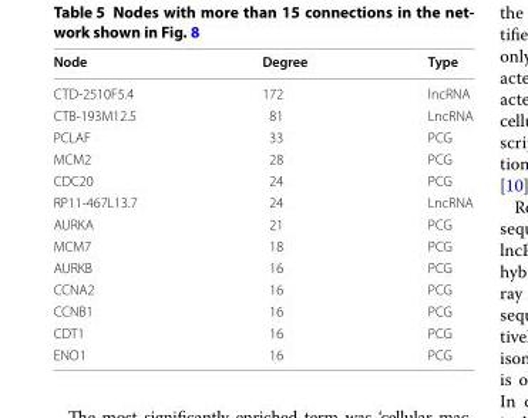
<table><thead><tr><td>Node</td><td>Degree</td><td>Type</td></tr></thead><tbody><tr><td>CTD-2510F5.4</td><td>172</td><td>lncRNA</td></tr><tr><td>CTB-193M12.5</td><td>81</td><td>LncRNA</td></tr><tr><td>PCLAF</td><td>33</td><td>PCG</td></tr><tr><td>MCM2</td><td>28</td><td>PCG</td></tr><tr><td>CDC20</td><td>24</td><td>PCG</td></tr><tr><td>RP11-467L13.7</td><td>24</td><td>LncRNA</td></tr><tr><td>AURKA</td><td>21</td><td>PCG</td></tr><tr><td>MCM7</td><td>18</td><td>PCG</td></tr><tr><td>AURKB</td><td>16</td><td>PCG</td></tr><tr><td>CCNA2</td><td>16</td><td>PCG</td></tr><tr><td>CCNB1</td><td>16</td><td>PCG</td></tr><tr><td>CDT1</td><td>16</td><td>PCG</td></tr><tr><td>ENO1</td><td>16</td><td>PCG</td></tr></tbody></table>